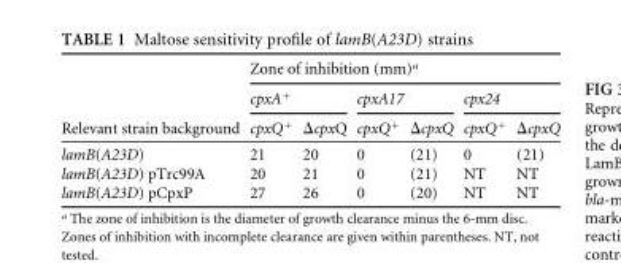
<table><thead><tr><td rowspan="3">Relevant strain background</td><td colspan="6">Zone of inhibition (mm)<sup>a</sup></td></tr><tr><td colspan="2">cpxA<sup>+</sup></td><td colspan="2">cpxA17</td><td colspan="2">cpx24</td></tr><tr><td>cpxQ<sup>+</sup></td><td>ΔcpxQ</td><td>cpxQ<sup>+</sup></td><td>ΔcpxQ</td><td>cpxQ<sup>+</sup></td><td>ΔcpxQ</td></tr></thead><tbody><tr><td>lamB(A23D)</td><td>21</td><td>20</td><td>0</td><td>(21)</td><td>0</td><td>(21)</td></tr><tr><td>lamB(A23D) pTrc99A</td><td>20</td><td>21</td><td>0</td><td>(21)</td><td>NT</td><td>NT</td></tr><tr><td>lamB(A23D) pCpxP</td><td>27</td><td>26</td><td>0</td><td>(20)</td><td>NT</td><td>NT</td></tr></tbody></table>